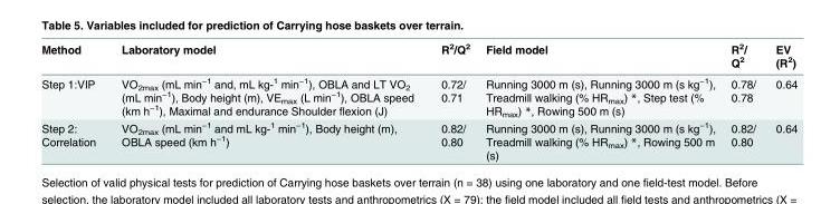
<table><thead><tr><td>Method</td><td>Laboratory model</td><td>R<sup>2</sup>/Q<sup>2</sup></td><td>Field model</td><td>R<sup>2</sup>/ Q<sup>2</sup></td><td>EV (R<sup>2</sup>)</td></tr></thead><tbody><tr><td>Step 1:VIP</td><td>VO<sub>2max</sub> (mL∙min<sup>−1</sup> and, mL∙kg-<sup>1</sup>∙min<sup>−1</sup>), OBLA and LT VO<sub>2</sub> (mL∙min<sup>−1</sup>), Body height (m), VE<sub>max</sub> (L∙min<sup>−1</sup>), OBLA speed (km∙h<sup>−1</sup>), Maximal and endurance Shoulder flexion (J)</td><td>0.72/ 0.71</td><td>Running 3000 m (s), Running 3000 m (s∙kg<sup>−1</sup>), Treadmill walking (% HR<sub>max</sub>) *, Step test (% HR<sub>max</sub>) *, Rowing 500 m (s)</td><td>0.78/ 0.78</td><td>0.64</td></tr><tr><td>Step 2: Correlation</td><td>VO<sub>2max</sub> (mL∙min<sup>−1</sup> and mL∙kg-<sup>1</sup>∙min<sup>−1</sup>), Body height (m), OBLA speed (km∙h<sup>−1</sup>)</td><td>0.82/ 0.80</td><td>Running 3000 m (s), Running 3000 m (s∙kg<sup>−1</sup>), Treadmill walking (% HR<sub>max</sub>) *, Rowing 500 m (s)</td><td>0.82/ 0.80</td><td>0.64</td></tr></tbody></table>